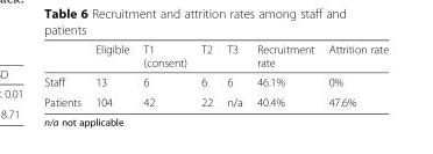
<table><thead><tr><td></td><td>Eligible</td><td>T1 (consent)</td><td>T2</td><td>T3</td><td>Recruitment rate</td><td>Attrition rate</td></tr></thead><tbody><tr><td>Staff</td><td>13</td><td>6</td><td>6</td><td>6</td><td>46.1%</td><td>0%</td></tr><tr><td>Patients</td><td>104</td><td>42</td><td>22</td><td>n/a</td><td>40.4%</td><td>47.6%</td></tr></tbody></table>